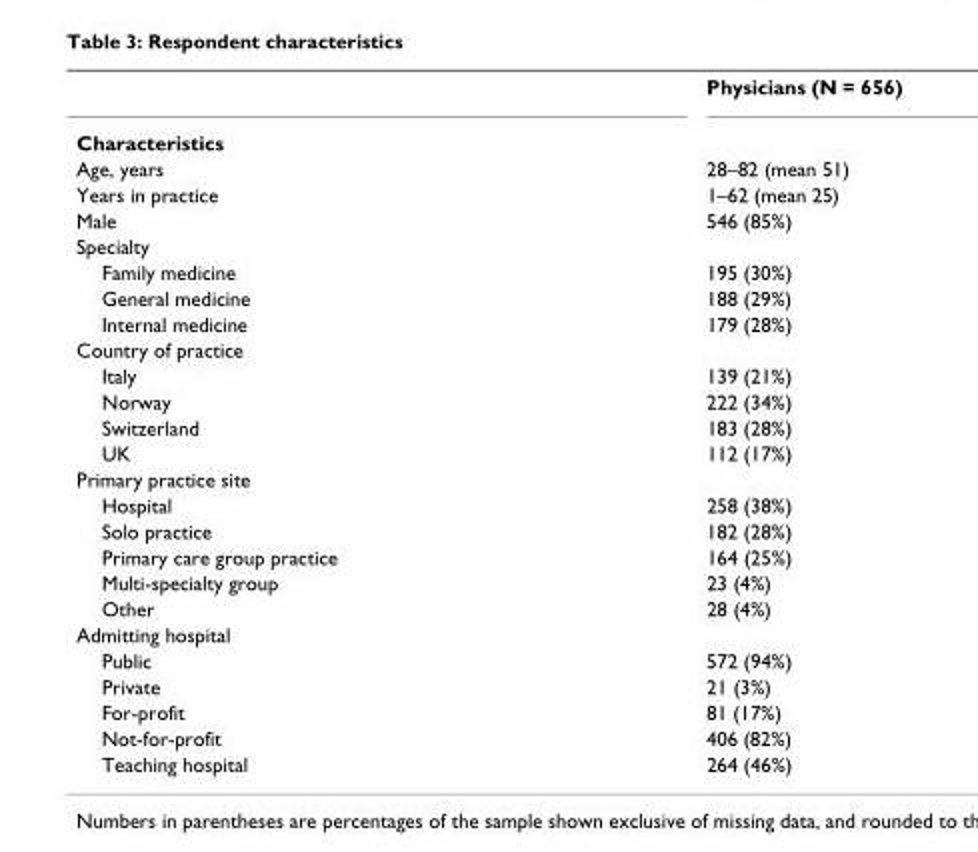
<table><thead><tr><td></td><td>Physicians (N = 656)</td></tr></thead><tbody><tr><td colspan="2">Characteristics</td></tr><tr><td>Age, years</td><td>28–82 (mean 51)</td></tr><tr><td>Years in practice</td><td>1–62 (mean 25)</td></tr><tr><td>Male</td><td>546 (85%)</td></tr><tr><td colspan="2">Specialty</td></tr><tr><td>Family medicine</td><td>195 (30%)</td></tr><tr><td>General medicine</td><td>188 (29%)</td></tr><tr><td>Internal medicine</td><td>179 (28%)</td></tr><tr><td colspan="2">Country of practice</td></tr><tr><td>Italy</td><td>139 (21%)</td></tr><tr><td>Norway</td><td>222 (34%)</td></tr><tr><td>Switzerland</td><td>183 (28%)</td></tr><tr><td>UK</td><td>112 (17%)</td></tr><tr><td colspan="2">Primary practice site</td></tr><tr><td>Hospital</td><td>258 (38%)</td></tr><tr><td>Solo practice</td><td>182 (28%)</td></tr><tr><td>Primary care group practice</td><td>164 (25%)</td></tr><tr><td>Multi-specialty group</td><td>23 (4%)</td></tr><tr><td>Other</td><td>28 (4%)</td></tr><tr><td colspan="2">Admitting hospital</td></tr><tr><td>Public</td><td>572 (94%)</td></tr><tr><td>Private</td><td>21 (3%)</td></tr><tr><td>For-profit</td><td>81 (17%)</td></tr><tr><td>Not-for-profit</td><td>406 (82%)</td></tr><tr><td>Teaching hospital</td><td>264 (46%)</td></tr></tbody></table>